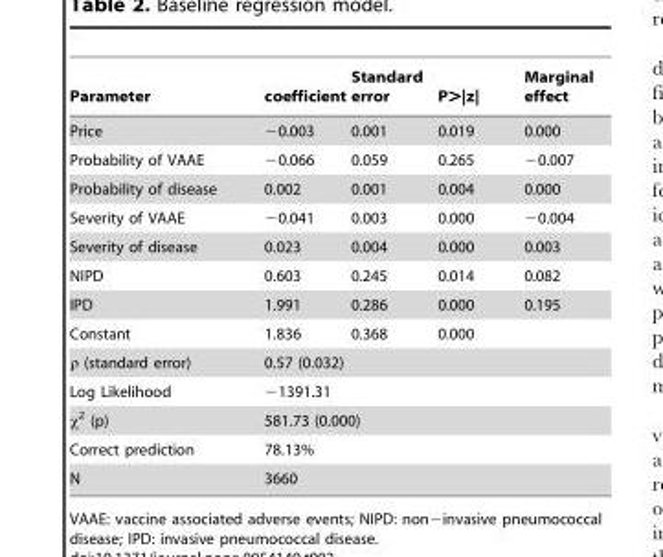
<table><thead><tr><td>Parameter</td><td>coefficient</td><td>Standard error</td><td>P&gt;|z|</td><td>Marginal effect</td></tr></thead><tbody><tr><td>Price</td><td>−0.003</td><td>0.001</td><td>0.019</td><td>0.000</td></tr><tr><td>Probability of VAAE</td><td>−0.066</td><td>0.059</td><td>0.265</td><td>−0.007</td></tr><tr><td>Probability of disease</td><td>0.002</td><td>0.001</td><td>0.004</td><td>0.000</td></tr><tr><td>Severity of VAAE</td><td>−0.041</td><td>0.003</td><td>0.000</td><td>−0.004</td></tr><tr><td>Severity of disease</td><td>0.023</td><td>0.004</td><td>0.000</td><td>0.003</td></tr><tr><td>NIPD</td><td>0.603</td><td>0.245</td><td>0.014</td><td>0.082</td></tr><tr><td>IPD</td><td>1.991</td><td>0.286</td><td>0.000</td><td>0.195</td></tr><tr><td>Constant</td><td>1.836</td><td>0.368</td><td>0.000</td><td></td></tr><tr><td>ρ (standard error)</td><td colspan="4">0.57 (0.032)</td></tr><tr><td>Log Likelihood</td><td colspan="4">−1391.31</td></tr><tr><td>x2 (p)</td><td colspan="4">581.73 (0.000)</td></tr><tr><td>Correct prediction</td><td colspan="4">78.13%</td></tr><tr><td>N</td><td colspan="4">3660</td></tr></tbody></table>